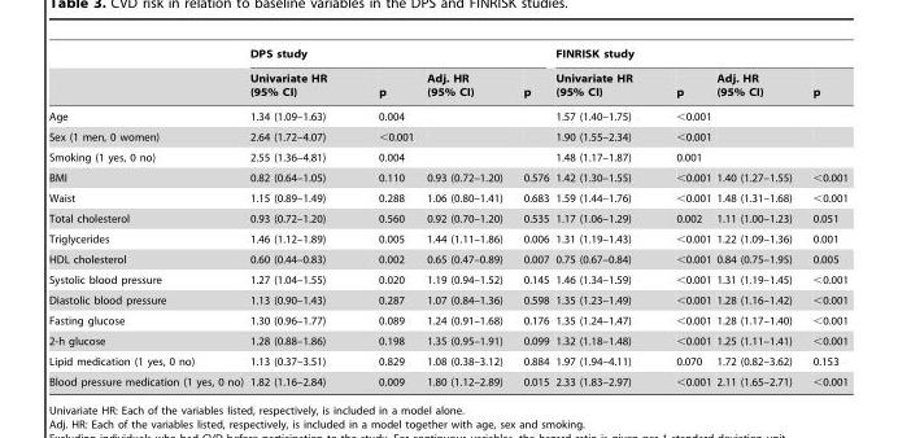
<table><thead><tr><td rowspan="2"></td><td colspan="4">DPS study</td><td colspan="4">FINRISK study</td></tr><tr><td>Univariate HR (95% CI)</td><td>p</td><td>Adj. HR (95% CI)</td><td>p</td><td>Univariate HR (95% CI)</td><td>p</td><td>Adj. HR (95% CI)</td><td>p</td></tr></thead><tbody><tr><td>Age</td><td>1.34 (1.09–1.63)</td><td>0.004</td><td></td><td></td><td>1.57 (1.40–1.75)</td><td>&lt;0.001</td><td></td><td></td></tr><tr><td>Sex (1 men, 0 women)</td><td>2.64 (1.72–4.07)</td><td>&lt;0.001</td><td></td><td></td><td>1.90 (1.55–2.34)</td><td>&lt;0.001</td><td></td><td></td></tr><tr><td>Smoking (1 yes, 0 no)</td><td>2.55 (1.36–4.81)</td><td>0.004</td><td></td><td></td><td>1.48 (1.17–1.87)</td><td>0.001</td><td></td><td></td></tr><tr><td>BMI</td><td>0.82 (0.64–1.05)</td><td>0.110</td><td>0.93 (0.72–1.20)</td><td>0.576</td><td>1.42 (1.30–1.55)</td><td>&lt;0.001</td><td>1.40 (1.27–1.55)</td><td>&lt;0.001</td></tr><tr><td>Waist</td><td>1.15 (0.89–1.49)</td><td>0.288</td><td>1.06 (0.80–1.41)</td><td>0.683</td><td>1.59 (1.44–1.76)</td><td>&lt;0.001</td><td>1.48 (1.31–1.68)</td><td>&lt;0.001</td></tr><tr><td>Total cholesterol</td><td>0.93 (0.72–1.20)</td><td>0.560</td><td>0.92 (0.70–1.20)</td><td>0.535</td><td>1.17 (1.06–1.29)</td><td>0.002</td><td>1.11 (1.00–1.23)</td><td>0.051</td></tr><tr><td>Triglycerides</td><td>1.46 (1.12–1.89)</td><td>0.005</td><td>1.44 (1.11–1.86)</td><td>0.006</td><td>1.31 (1.19–1.43)</td><td>&lt;0.001</td><td>1.22 (1.09–1.36)</td><td>0.001</td></tr><tr><td>HDL cholesterol</td><td>0.60 (0.44–0.83)</td><td>0.002</td><td>0.65 (0.47–0.89)</td><td>0.007</td><td>0.75 (0.67–0.84)</td><td>&lt;0.001</td><td>0.84 (0.75–1.95)</td><td>0.005</td></tr><tr><td>Systolic blood pressure</td><td>1.27 (1.04–1.55)</td><td>0.020</td><td>1.19 (0.94–1.52)</td><td>0.145</td><td>1.46 (1.34–1.59)</td><td>&lt;0.001</td><td>1.31 (1.19–1.45)</td><td>&lt;0.001</td></tr><tr><td>Diastolic blood pressure</td><td>1.13 (0.90–1.43)</td><td>0.287</td><td>1.07 (0.84–1.36)</td><td>0.598</td><td>1.35 (1.23–1.49)</td><td>&lt;0.001</td><td>1.28 (1.16–1.42)</td><td>&lt;0.001</td></tr><tr><td>Fasting glucose</td><td>1.30 (0.96–1.77)</td><td>0.089</td><td>1.24 (0.91–1.68)</td><td>0.176</td><td>1.35 (1.24–1.47)</td><td>&lt;0.001</td><td>1.28 (1.17–1.40)</td><td>&lt;0.001</td></tr><tr><td>2-h glucose</td><td>1.28 (0.88–1.86)</td><td>0.198</td><td>1.35 (0.95–1.91)</td><td>0.099</td><td>1.32 (1.18–1.48)</td><td>&lt;0.001</td><td>1.25 (1.11–1.41)</td><td>&lt;0.001</td></tr><tr><td>Lipid medication (1 yes, 0 no)</td><td>1.13 (0.37–3.51)</td><td>0.829</td><td>1.08 (0.38–3.12)</td><td>0.884</td><td>1.97 (1.94–4.11)</td><td>0.070</td><td>1.72 (0.82–3.62)</td><td>0.153</td></tr><tr><td>Blood pressure medication (1 yes, 0 no)</td><td>1.82 (1.16–2.84)</td><td>0.009</td><td>1.80 (1.12–2.89)</td><td>0.015</td><td>2.33 (1.83–2.97)</td><td>&lt;0.001</td><td>2.11 (1.65–2.71)</td><td>&lt;0.001</td></tr></tbody></table>